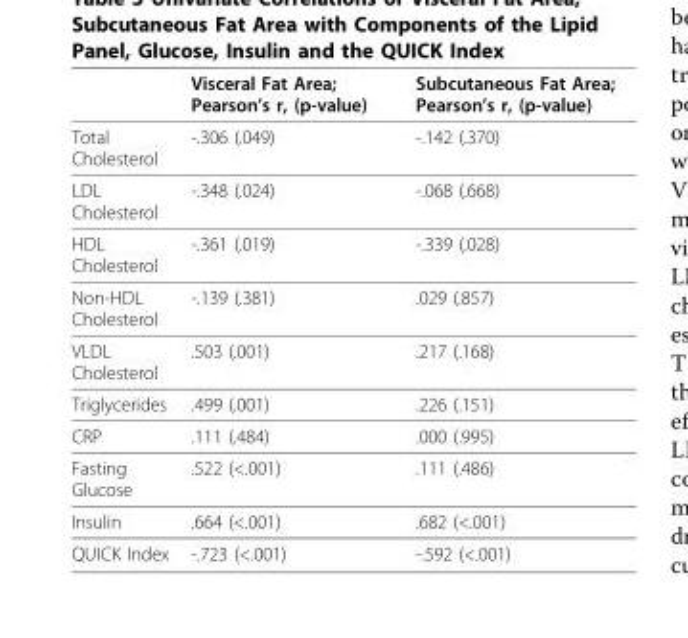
<table><thead><tr><td></td><td>Visceral Fat Area; Pearson’s r, (p-value)</td><td>Subcutaneous Fat Area; Pearson’s r, (p-value)</td></tr></thead><tbody><tr><td>Total Cholesterol</td><td>-.306 (.049)</td><td>-.142 (.370)</td></tr><tr><td>LDL Cholesterol</td><td>-.348 (.024)</td><td>-.068 (.668)</td></tr><tr><td>HDL Cholesterol</td><td>-.361 (.019)</td><td>-.339 (.028)</td></tr><tr><td>Non-HDL Cholesterol</td><td>-.139 (.381)</td><td>.029 (.857)</td></tr><tr><td>VLDL Cholesterol</td><td>.503 (.001)</td><td>.217 (.168)</td></tr><tr><td>Triglycerides</td><td>.499 (.001)</td><td>.226 (.151)</td></tr><tr><td>CRP</td><td>.111 (.484)</td><td>.000 (.995)</td></tr><tr><td>Fasting Glucose</td><td>.522 (&lt;.001)</td><td>.111 (.486)</td></tr><tr><td>Insulin</td><td>.664 (&lt;.001)</td><td>.682 (&lt;.001)</td></tr><tr><td>QUICK Index</td><td>-.723 (&lt;.001)</td><td>-.592 (&lt;.001)</td></tr></tbody></table>